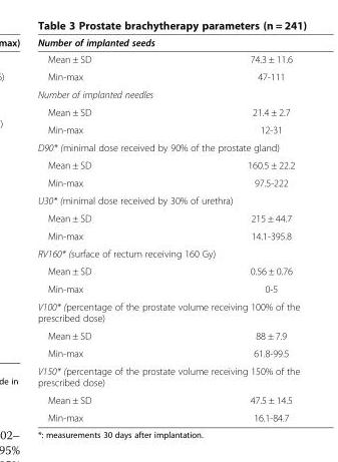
<table><thead><tr><td colspan="2">Number of implanted seeds</td></tr><tr><td>Mean ± SD</td><td>74.3 ± 11.6</td></tr></thead><tbody><tr><td>Min-max</td><td>47-111</td></tr><tr><td colspan="2">Number of implanted needles</td></tr><tr><td>Mean ± SD</td><td>21.4 ± 2.7</td></tr><tr><td>Min-max</td><td>12-31</td></tr><tr><td colspan="2">D90* (minimal dose received by 90% of the prostate gland)</td></tr><tr><td>Mean ± SD</td><td>160.5 ± 22.2</td></tr><tr><td>Min-max</td><td>97.5-222</td></tr><tr><td colspan="2">U30* (minimal dose received by 30% of urethra)</td></tr><tr><td>Mean ± SD</td><td>215 ± 44.7</td></tr><tr><td>Min-max</td><td>14.1-395.8</td></tr><tr><td colspan="2">RV160* (surface of rectum receiving 160 Gy)</td></tr><tr><td>Mean ± SD</td><td>0.56 ± 0.76</td></tr><tr><td>Min-max</td><td>0-5</td></tr><tr><td colspan="2">V100* (percentage of the prostate volume receiving 100% of the prescribed dose)</td></tr><tr><td>Mean ± SD</td><td>88 ± 7.9</td></tr><tr><td>Min-max</td><td>61.8-99.5</td></tr><tr><td colspan="2">V150* (percentage of the prostate volume receiving 150% of the prescribed dose)</td></tr><tr><td>Mean ± SD</td><td>47.5 ± 14.5</td></tr><tr><td>Min-max</td><td>16.1-84.7</td></tr></tbody></table>